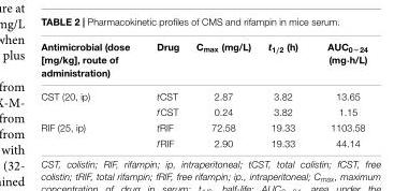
<table><thead><tr><td>Antimicrobial (dose [mg/kg], route of administration)</td><td>Drug</td><td>C<sub>max</sub> (mg/L)</td><td>t<sub>1/2</sub> (h)</td><td>AUC0−24 (mg·h/L)</td></tr></thead><tbody><tr><td rowspan="2">CST (20, ip)</td><td>tCST</td><td>2.87</td><td>3.82</td><td>13.65</td></tr><tr><td>fCST</td><td>0.24</td><td>3.82</td><td>1.15</td></tr><tr><td rowspan="2">RIF (25, ip)</td><td>tRIF</td><td>72.58</td><td>19.33</td><td>1103.58</td></tr><tr><td>fRIF</td><td>2.90</td><td>19.33</td><td>44.14</td></tr></tbody></table>